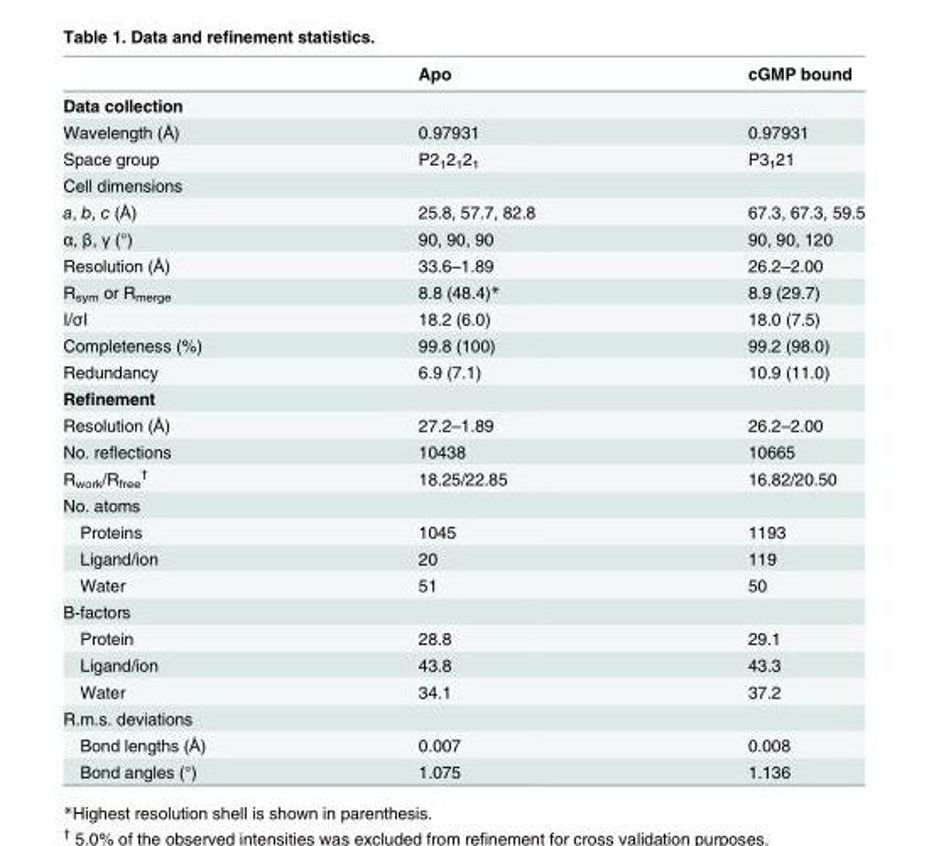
<table><thead><tr><td></td><td>Apo</td><td>cGMP bound</td></tr></thead><tbody><tr><td colspan="3">Data collection</td></tr><tr><td>Wavelength (Å)</td><td>0.97931</td><td>0.97931</td></tr><tr><td>Space group</td><td>P2<sub>1</sub>2<sub>1</sub>2<sub>1</sub></td><td>P3<sub>1</sub>21</td></tr><tr><td colspan="3">Cell dimensions</td></tr><tr><td>a, b, c (Å)</td><td>25.8, 57.7, 82.8</td><td>67.3, 67.3, 59.5</td></tr><tr><td>α, β, γ (°)</td><td>90, 90, 90</td><td>90, 90, 120</td></tr><tr><td>Resolution (Å)</td><td>33.6–1.89</td><td>26.2–2.00</td></tr><tr><td>R<sub>sym</sub> or R<sub>merge</sub></td><td>8.8 (48.4)*</td><td>8.9 (29.7)</td></tr><tr><td>I/σI</td><td>18.2 (6.0)</td><td>18.0 (7.5)</td></tr><tr><td>Completeness (%)</td><td>99.8 (100)</td><td>99.2 (98.0)</td></tr><tr><td>Redundancy</td><td>6.9 (7.1)</td><td>10.9 (11.0)</td></tr><tr><td colspan="3">Refinement</td></tr><tr><td>Resolution (Å)</td><td>27.2–1.89</td><td>26.2–2.00</td></tr><tr><td>No. reflections</td><td>10438</td><td>10665</td></tr><tr><td>R<sub>work</sub>/R<sub>free</sub> <sup>†</sup></td><td>18.25/22.85</td><td>16.82/20.50</td></tr><tr><td colspan="3">No. atoms</td></tr><tr><td>Proteins</td><td>1045</td><td>1193</td></tr><tr><td>Ligand/ion</td><td>20</td><td>119</td></tr><tr><td>Water</td><td>51</td><td>50</td></tr><tr><td colspan="3">B-factors</td></tr><tr><td>Protein</td><td>28.8</td><td>29.1</td></tr><tr><td>Ligand/ion</td><td>43.8</td><td>43.3</td></tr><tr><td>Water</td><td>34.1</td><td>37.2</td></tr><tr><td colspan="3">R.m.s. deviations</td></tr><tr><td>Bond lengths (Å)</td><td>0.007</td><td>0.008</td></tr><tr><td>Bond angles (°)</td><td>1.075</td><td>1.136</td></tr></tbody></table>